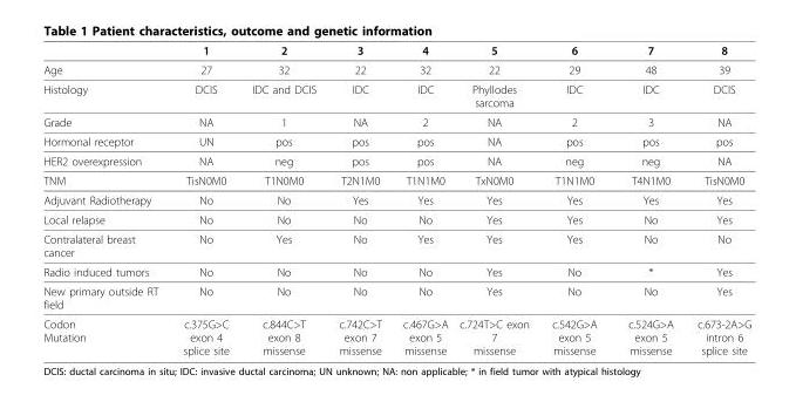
<table><thead><tr><td></td><td>1</td><td>2</td><td>3</td><td>4</td><td>5</td><td>6</td><td>7</td><td>8</td></tr></thead><tbody><tr><td>Age</td><td>27</td><td>32</td><td>22</td><td>32</td><td>22</td><td>29</td><td>48</td><td>39</td></tr><tr><td>Histology</td><td>DCIS</td><td>IDC and DCIS</td><td>IDC</td><td>IDC</td><td>Phyllodes sarcoma</td><td>IDC</td><td>IDC</td><td>DCIS</td></tr><tr><td>Grade</td><td>NA</td><td>1</td><td>NA</td><td>2</td><td>NA</td><td>2</td><td>3</td><td>NA</td></tr><tr><td>Hormonal receptor</td><td>UN</td><td>pos</td><td>pos</td><td>pos</td><td>NA</td><td>pos</td><td>pos</td><td>pos</td></tr><tr><td>HER2 overexpression</td><td>NA</td><td>neg</td><td>pos</td><td>pos</td><td>NA</td><td>neg</td><td>neg</td><td>NA</td></tr><tr><td>TNM</td><td>TisN0M0</td><td>T1N0M0</td><td>T2N1M0</td><td>T1N1M0</td><td>TxN0M0</td><td>T1N1M0</td><td>T4N1M0</td><td>TisN0M0</td></tr><tr><td>Adjuvant Radiotherapy</td><td>No</td><td>No</td><td>Yes</td><td>Yes</td><td>Yes</td><td>Yes</td><td>Yes</td><td>Yes</td></tr><tr><td>Local relapse</td><td>No</td><td>No</td><td>No</td><td>No</td><td>Yes</td><td>Yes</td><td>No</td><td>Yes</td></tr><tr><td>Contralateral breast cancer</td><td>No</td><td>Yes</td><td>No</td><td>Yes</td><td>Yes</td><td>Yes</td><td>No</td><td>No</td></tr><tr><td>Radio induced tumors</td><td>No</td><td>No</td><td>No</td><td>No</td><td>Yes</td><td>No</td><td>*</td><td>Yes</td></tr><tr><td>New primary outside RT field</td><td>No</td><td>No</td><td>No</td><td>No</td><td>Yes</td><td>No</td><td>No</td><td>Yes</td></tr><tr><td>Codon Mutation</td><td>c.375G&gt;C exon 4 splice site</td><td>c.844C&gt;T exon 8 missense</td><td>c.742C&gt;T exon 7 missense</td><td>c.467G&gt;A exon 5 missense</td><td>c.724T&gt;C exon 7 missense</td><td>c.542G&gt;A exon 5 missense</td><td>c.524G&gt;A exon 5 missense</td><td>c.673-2A&gt;G intron 6 splice site</td></tr></tbody></table>